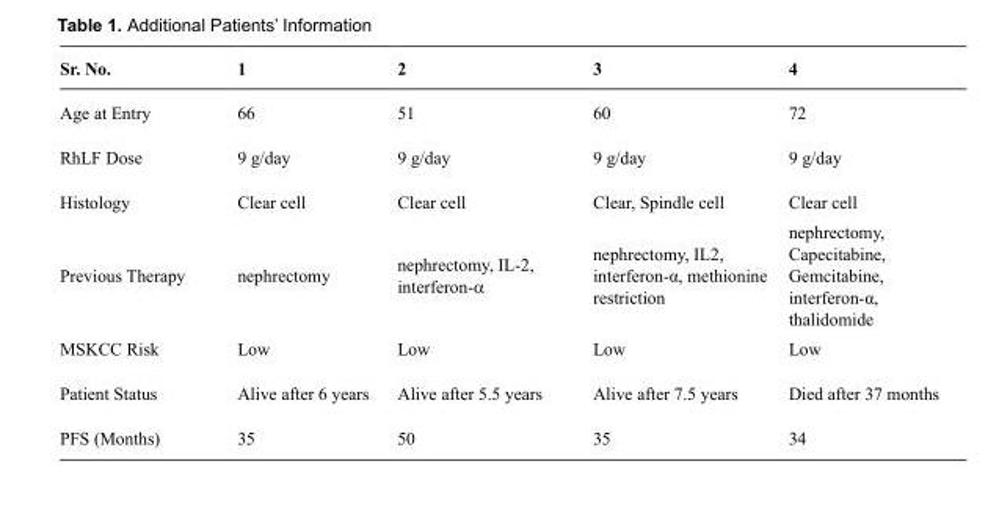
<table><thead><tr><td>Sr. No.</td><td>1</td><td>2</td><td>3</td><td>4</td></tr></thead><tbody><tr><td>Age at Entry</td><td>66</td><td>51</td><td>60</td><td>72</td></tr><tr><td>RhLF Dose</td><td>9 g/day</td><td>9 g/day</td><td>9 g/day</td><td>9 g/day</td></tr><tr><td>Histology</td><td>Clear cell</td><td>Clear cell</td><td>Clear, Spindle cell</td><td>Clear cell</td></tr><tr><td>Previous Therapy</td><td>nephrectomy</td><td>nephrectomy, IL-2, interferon-α</td><td>nephrectomy, IL2, interferon-α, methionine restriction</td><td>nephrectomy, Capecitabine, Gemcitabine, interferon-α, thalidomide</td></tr><tr><td>MSKCC Risk</td><td>Low</td><td>Low</td><td>Low</td><td>Low</td></tr><tr><td>Patient Status</td><td>Alive after 6 years</td><td>Alive after 5.5 years</td><td>Alive after 7.5 years</td><td>Died after 37 months</td></tr><tr><td>PFS (Months)</td><td>35</td><td>50</td><td>35</td><td>34</td></tr></tbody></table>